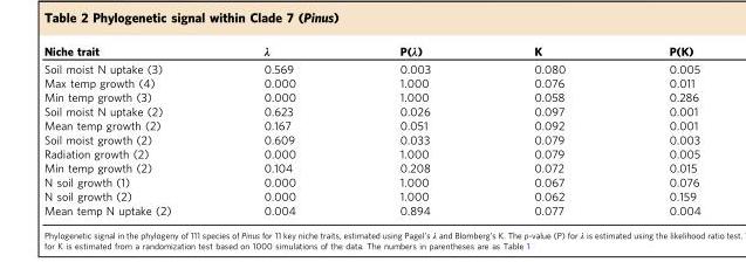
<table><thead><tr><td>Niche trait</td><td>λ</td><td>P(λ)</td><td>K</td><td>P(K)</td></tr></thead><tbody><tr><td>Soil moist N uptake (3)</td><td>0.569</td><td>0.003</td><td>0.080</td><td>0.005</td></tr><tr><td>Max temp growth (4)</td><td>0.000</td><td>1.000</td><td>0.076</td><td>0.011</td></tr><tr><td>Min temp growth (3)</td><td>0.000</td><td>1.000</td><td>0.058</td><td>0.286</td></tr><tr><td>Soil moist N uptake (2)</td><td>0.623</td><td>0.026</td><td>0.097</td><td>0.001</td></tr><tr><td>Mean temp growth (2)</td><td>0.167</td><td>0.051</td><td>0.092</td><td>0.001</td></tr><tr><td>Soil moist growth (2)</td><td>0.609</td><td>0.033</td><td>0.079</td><td>0.003</td></tr><tr><td>Radiation growth (2)</td><td>0.000</td><td>1.000</td><td>0.079</td><td>0.005</td></tr><tr><td>Min temp growth (2)</td><td>0.104</td><td>0.208</td><td>0.072</td><td>0.015</td></tr><tr><td>N soil growth (1)</td><td>0.000</td><td>1.000</td><td>0.067</td><td>0.076</td></tr><tr><td>N soil growth (2)</td><td>0.000</td><td>1.000</td><td>0.062</td><td>0.159</td></tr><tr><td>Mean temp N uptake (2)</td><td>0.004</td><td>0.894</td><td>0.077</td><td>0.004</td></tr></tbody></table>